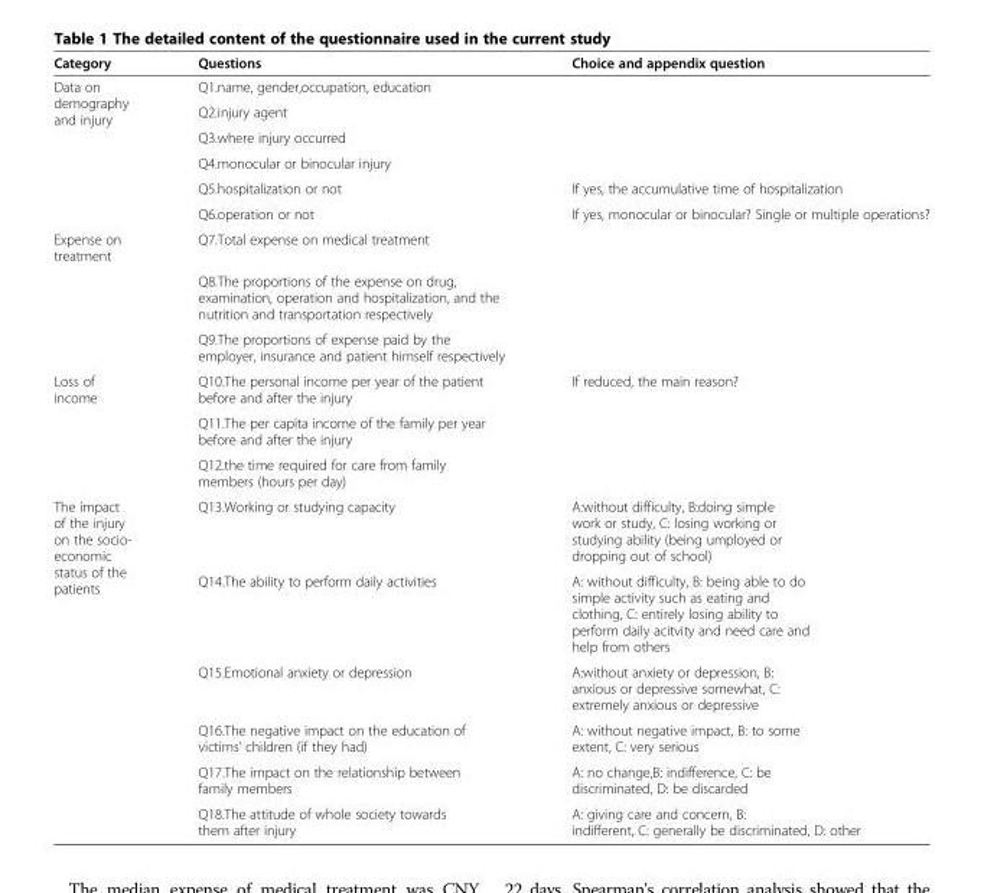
<table><thead><tr><td>Category</td><td>Questions</td><td>Choice and appendix question</td></tr></thead><tbody><tr><td rowspan="6">Data on demography and injury</td><td>Q1.name, gender,occupation, education</td><td></td></tr><tr><td>Q2.injury agent</td><td></td></tr><tr><td>Q3.where injury occurred</td><td></td></tr><tr><td>Q4.monocular or binocular injury</td><td></td></tr><tr><td>Q5.hospitalization or not</td><td>If yes, the accumulative time of hospitalization</td></tr><tr><td>Q6.operation or not</td><td>If yes, monocular or binocular? Single or multiple operations?</td></tr><tr><td rowspan="3">Expense on treatment</td><td>Q7.Total expense on medical treatment</td><td></td></tr><tr><td>Q8.The proportions of the expense on drug, examination, operation and hospitalization, and the nutrition and transportation respectively</td><td></td></tr><tr><td>Q9.The proportions of expense paid by the employer, insurance and patient himself respectively</td><td></td></tr><tr><td rowspan="3">Loss of income</td><td>Q10.The personal income per year of the patient before and after the injury</td><td>If reduced, the main reason?</td></tr><tr><td>Q11.The per capita income of the family per year before and after the injury</td><td></td></tr><tr><td>Q12.the time required for care from family members (hours per day)</td><td></td></tr><tr><td rowspan="6">The impact of the injury on the socio- economic status of the patients</td><td>Q13.Working or studying capacity</td><td>A:without difficulty, B:doing simple work or study, C: losing working or studying ability (being umployed or dropping out of school)</td></tr><tr><td>Q14.The ability to perform daily activities</td><td>A: without difficulty, B: being able to do simple activity such as eating and clothing, C: entirely losing ability to perform daily acitvity and need care and help from others</td></tr><tr><td>Q15.Emotional anxiety or depression</td><td>A:without anxiety or depression, B: anxious or depressive somewhat, C: extremely anxious or depressive</td></tr><tr><td>Q16.The negative impact on the education of victims&#x27; children (if they had)</td><td>A: without negative impact, B: to some extent, C: very serious</td></tr><tr><td>Q17.The impact on the relationship between family members</td><td>A: no change,B: indifference, C: be discriminated, D: be discarded</td></tr><tr><td>Q18.The attitude of whole society towards them after injury</td><td>A: giving care and concern, B: indifferent, C: generally be discriminated, D: other</td></tr></tbody></table>